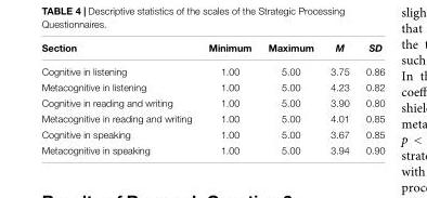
<table><thead><tr><td>Section</td><td>Minimum</td><td>Maximum</td><td>M</td><td>SD</td></tr></thead><tbody><tr><td>Cognitive in listening</td><td>1.00</td><td>5.00</td><td>3.75</td><td>0.86</td></tr><tr><td>Metacognitive in listening</td><td>1.00</td><td>5.00</td><td>4.23</td><td>0.82</td></tr><tr><td>Cognitive in reading and writing</td><td>1.00</td><td>5.00</td><td>3.90</td><td>0.80</td></tr><tr><td>Metacognitive in reading and writing</td><td>1.00</td><td>5.00</td><td>4.01</td><td>0.85</td></tr><tr><td>Cognitive in speaking</td><td>1.00</td><td>5.00</td><td>3.67</td><td>0.85</td></tr><tr><td>Metacognitive in speaking</td><td>1.00</td><td>5.00</td><td>3.94</td><td>0.90</td></tr></tbody></table>